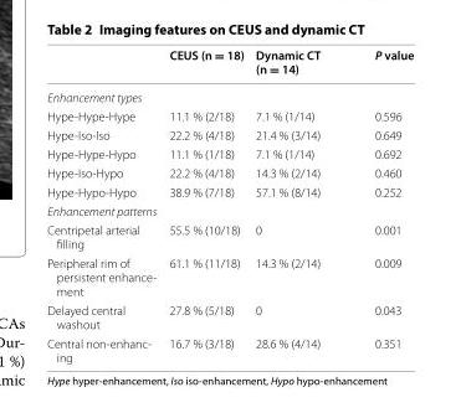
<table><thead><tr><td></td><td>CEUS (n = 18)</td><td>Dynamic CT (n = 14)</td><td>P value</td></tr></thead><tbody><tr><td colspan="4">Enhancement types</td></tr><tr><td>Hype‑Hype‑Hype</td><td>11.1 % (2/18)</td><td>7.1 % (1/14)</td><td>0.596</td></tr><tr><td>Hype‑Iso‑Iso</td><td>22.2 % (4/18)</td><td>21.4 % (3/14)</td><td>0.649</td></tr><tr><td>Hype‑Hype‑Hypo</td><td>11.1 % (1/18)</td><td>7.1 % (1/14)</td><td>0.692</td></tr><tr><td>Hype‑Iso‑Hypo</td><td>22.2 % (4/18)</td><td>14.3 % (2/14)</td><td>0.460</td></tr><tr><td>Hype‑Hypo‑Hypo</td><td>38.9 % (7/18)</td><td>57.1 % (8/14)</td><td>0.252</td></tr><tr><td colspan="4">Enhancement patterns</td></tr><tr><td>Centripetal arterial filling</td><td>55.5 % (10/18)</td><td>0</td><td>0.001</td></tr><tr><td>Peripheral rim of persistent enhance‑ ment</td><td>61.1 % (11/18)</td><td>14.3 % (2/14)</td><td>0.009</td></tr><tr><td>Delayed central washout</td><td>27.8 % (5/18)</td><td>0</td><td>0.043</td></tr><tr><td>Central non‑enhanc‑ ing</td><td>16.7 % (3/18)</td><td>28.6 % (4/14)</td><td>0.351</td></tr></tbody></table>